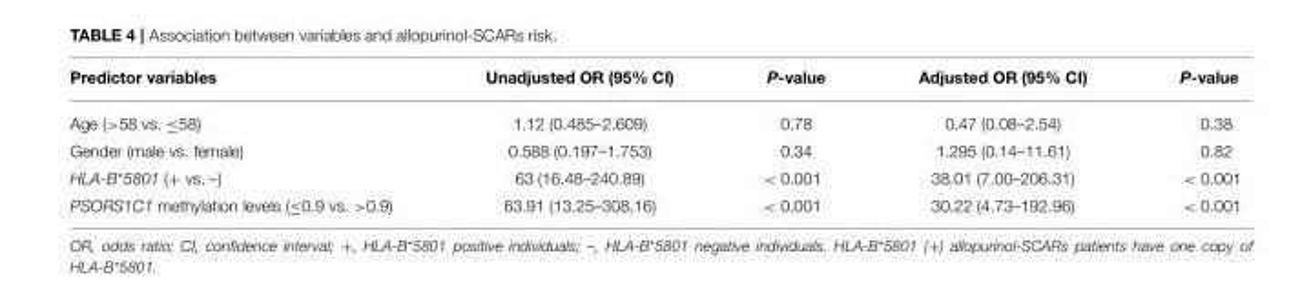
<table><thead><tr><td>Predictor variables</td><td>Unadjusted OR (95% CI)</td><td>P-value</td><td>Adjusted OR (95% CI)</td><td>P-value</td></tr></thead><tbody><tr><td>Age (&gt;58 vs. ≤58)</td><td>1.12 (0.485–2.609)</td><td>0.78</td><td>0.47 (0.08–2.54)</td><td>0.38</td></tr><tr><td>Gender (male vs. female)</td><td>0.588 (0.197–1.753)</td><td>0.34</td><td>1.295 (0.14–11.61)</td><td>0.82</td></tr><tr><td>HLA-B*5801 (+ vs. –)</td><td>63 (16.48–240.89)</td><td>&lt; 0.001</td><td>38.01 (7.00–206.31)</td><td>&lt; 0.001</td></tr><tr><td>PSORS1C1 methylation levels (≤0.9 vs. &gt;0.9)</td><td>63.91 (13.25–308.16)</td><td>&lt; 0.001</td><td>30.22 (4.73–192.96)</td><td>&lt; 0.001</td></tr></tbody></table>